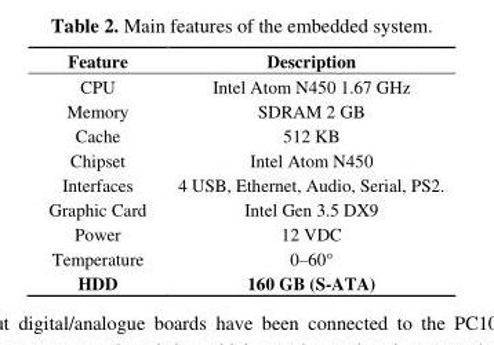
<table><thead><tr><td>Feature</td><td>Description</td></tr></thead><tbody><tr><td>CPU</td><td>Intel Atom N450 1.67 GHz</td></tr><tr><td>Memory</td><td>SDRAM 2 GB</td></tr><tr><td>Cache</td><td>512 KB</td></tr><tr><td>Chipset</td><td>Intel Atom N450</td></tr><tr><td>Interfaces</td><td>4 USB, Ethernet, Audio, Serial, PS2.</td></tr><tr><td>Graphic Card</td><td>Intel Gen 3.5 DX9</td></tr><tr><td>Power</td><td>12 VDC</td></tr><tr><td>Temperature</td><td>0–60°</td></tr><tr><td>HDD</td><td>160 GB (S-ATA)</td></tr></tbody></table>